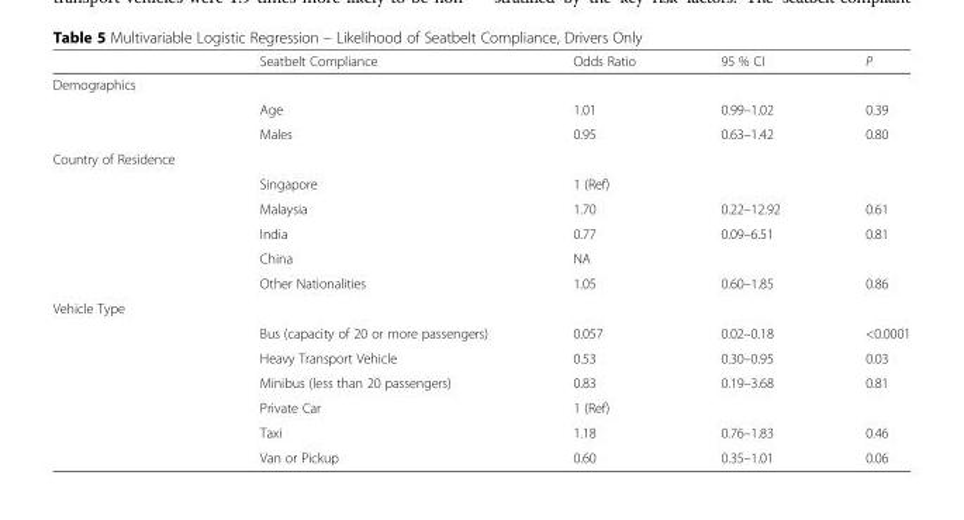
<table><thead><tr><td></td><td>Seatbelt Compliance</td><td>Odds Ratio</td><td>95 % CI</td><td>P</td></tr></thead><tbody><tr><td colspan="5">Demographics</td></tr><tr><td rowspan="2"></td><td>Age</td><td>1.01</td><td>0.99–1.02</td><td>0.39</td></tr><tr><td>Males</td><td>0.95</td><td>0.63–1.42</td><td>0.80</td></tr><tr><td colspan="5">Country of Residence</td></tr><tr><td rowspan="5"></td><td>Singapore</td><td>1 (Ref)</td><td></td><td></td></tr><tr><td>Malaysia</td><td>1.70</td><td>0.22–12.92</td><td>0.61</td></tr><tr><td>India</td><td>0.77</td><td>0.09–6.51</td><td>0.81</td></tr><tr><td>China</td><td>NA</td><td></td><td></td></tr><tr><td>Other Nationalities</td><td>1.05</td><td>0.60–1.85</td><td>0.86</td></tr><tr><td colspan="5">Vehicle Type</td></tr><tr><td rowspan="6"></td><td>Bus (capacity of 20 or more passengers)</td><td>0.057</td><td>0.02–0.18</td><td>&lt;0.0001</td></tr><tr><td>Heavy Transport Vehicle</td><td>0.53</td><td>0.30–0.95</td><td>0.03</td></tr><tr><td>Minibus (less than 20 passengers)</td><td>0.83</td><td>0.19–3.68</td><td>0.81</td></tr><tr><td>Private Car</td><td>1 (Ref)</td><td></td><td></td></tr><tr><td>Taxi</td><td>1.18</td><td>0.76–1.83</td><td>0.46</td></tr><tr><td>Van or Pickup</td><td>0.60</td><td>0.35–1.01</td><td>0.06</td></tr></tbody></table>